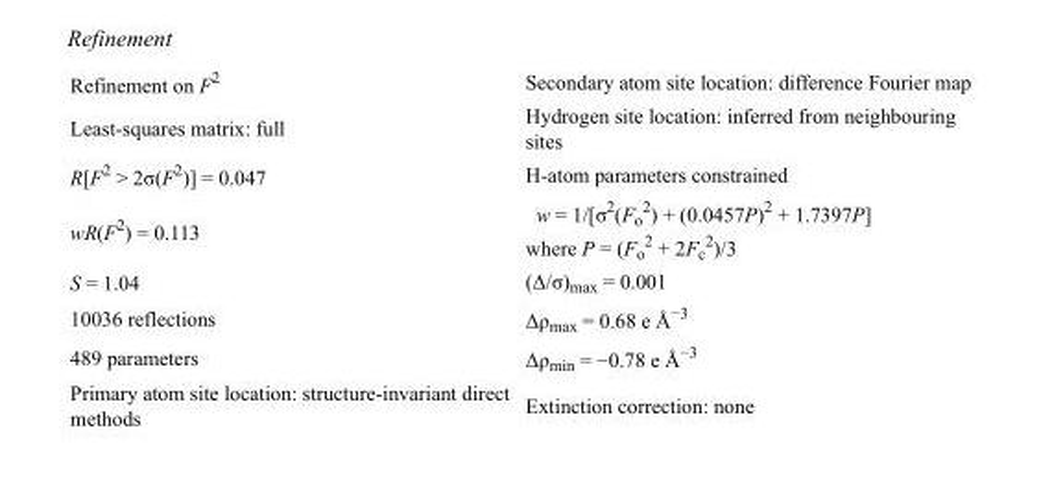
<table><tbody><tr><td>Refinement on F<sup>2</sup></td><td>Secondary atom site location: difference Fourier map</td></tr><tr><td>Least-squares matrix: full</td><td>Hydrogen site location: inferred from neighbouring sites</td></tr><tr><td>R[F<sup>2</sup> &gt; 2σ(F<sup>2</sup>)] = 0.047</td><td>H-atom parameters constrained</td></tr><tr><td>wR(F<sup>2</sup>) = 0.113</td><td>w = 1/[σ<sup>2</sup>(F<sub>o</sub> <sup>2</sup>) + (0.0457P)<sup>2</sup> + 1.7397P] where P = (F<sub>o</sub> <sup>2</sup> + 2F<sub>c</sub> <sup>2</sup>)/3</td></tr><tr><td>S = 1.04</td><td>(Δ/σ)<sub>max</sub> = 0.001</td></tr><tr><td>10036 reflections</td><td>Δρ<sub>max</sub> = 0.68 e Å<sup>−3</sup></td></tr><tr><td>489 parameters</td><td>Δρ<sub>min</sub> = −0.78 e Å<sup>−3</sup></td></tr><tr><td>Primary atom site location: structure-invariant direct methods</td><td>Extinction correction: none</td></tr></tbody></table>